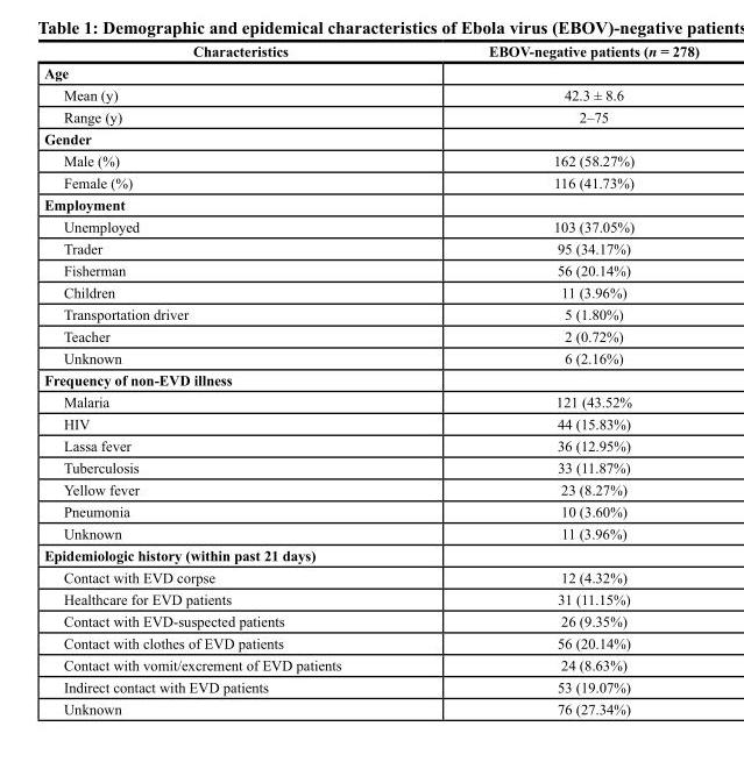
<table><thead><tr><td>Characteristics</td><td>EBOV-negative patients (n = 278)</td></tr></thead><tbody><tr><td colspan="2">Age</td></tr><tr><td>Mean (y)</td><td>42.3 ± 8.6</td></tr><tr><td>Range (y)</td><td>2–75</td></tr><tr><td colspan="2">Gender</td></tr><tr><td>Male (%)</td><td>162 (58.27%)</td></tr><tr><td>Female (%)</td><td>116 (41.73%)</td></tr><tr><td colspan="2">Employment</td></tr><tr><td>Unemployed</td><td>103 (37.05%)</td></tr><tr><td>Trader</td><td>95 (34.17%)</td></tr><tr><td>Fisherman</td><td>56 (20.14%)</td></tr><tr><td>Children</td><td>11 (3.96%)</td></tr><tr><td>Transportation driver</td><td>5 (1.80%)</td></tr><tr><td>Teacher</td><td>2 (0.72%)</td></tr><tr><td>Unknown</td><td>6 (2.16%)</td></tr><tr><td colspan="2">Frequency of non-EVD illness</td></tr><tr><td>Malaria</td><td>121 (43.52%</td></tr><tr><td>HIV</td><td>44 (15.83%)</td></tr><tr><td>Lassa fever</td><td>36 (12.95%)</td></tr><tr><td>Tuberculosis</td><td>33 (11.87%)</td></tr><tr><td>Yellow fever</td><td>23 (8.27%)</td></tr><tr><td>Pneumonia</td><td>10 (3.60%)</td></tr><tr><td>Unknown</td><td>11 (3.96%)</td></tr><tr><td colspan="2">Epidemiologic history (within past 21 days)</td></tr><tr><td>Contact with EVD corpse</td><td>12 (4.32%)</td></tr><tr><td>Healthcare for EVD patients</td><td>31 (11.15%)</td></tr><tr><td>Contact with EVD-suspected patients</td><td>26 (9.35%)</td></tr><tr><td>Contact with clothes of EVD patients</td><td>56 (20.14%)</td></tr><tr><td>Contact with vomit/excrement of EVD patients</td><td>24 (8.63%)</td></tr><tr><td>Indirect contact with EVD patients</td><td>53 (19.07%)</td></tr><tr><td>Unknown</td><td>76 (27.34%)</td></tr></tbody></table>